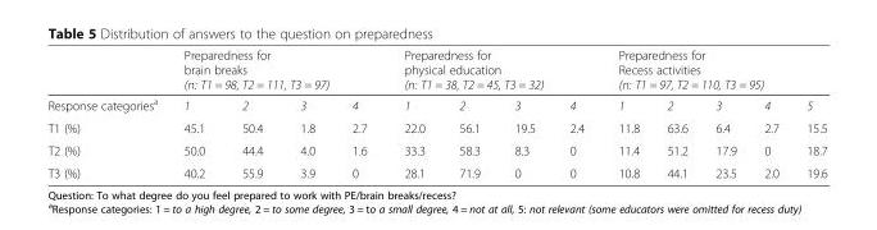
<table><thead><tr><td rowspan="2">Response categories<sup>a</sup></td><td colspan="4">Preparedness for brain breaks (n: T1 = 98, T2 = 111, T3 = 97)</td><td colspan="4">Preparedness for physical education (n: T1 = 38, T2 = 45, T3 = 32)</td><td colspan="5">Preparedness for Recess activities (n: T1 = 97, T2 = 110, T3 = 95)</td></tr><tr><td>1</td><td>2</td><td>3</td><td>4</td><td>1</td><td>2</td><td>3</td><td>4</td><td>1</td><td>2</td><td>3</td><td>4</td><td>5</td></tr></thead><tbody><tr><td>T1 (%)</td><td>45.1</td><td>50.4</td><td>1.8</td><td>2.7</td><td>22.0</td><td>56.1</td><td>19.5</td><td>2.4</td><td>11.8</td><td>63.6</td><td>6.4</td><td>2.7</td><td>15.5</td></tr><tr><td>T2 (%)</td><td>50.0</td><td>44.4</td><td>4.0</td><td>1.6</td><td>33.3</td><td>58.3</td><td>8.3</td><td>0</td><td>11.4</td><td>51.2</td><td>17.9</td><td>0</td><td>18.7</td></tr><tr><td>T3 (%)</td><td>40.2</td><td>55.9</td><td>3.9</td><td>0</td><td>28.1</td><td>71.9</td><td>0</td><td>0</td><td>10.8</td><td>44.1</td><td>23.5</td><td>2.0</td><td>19.6</td></tr></tbody></table>